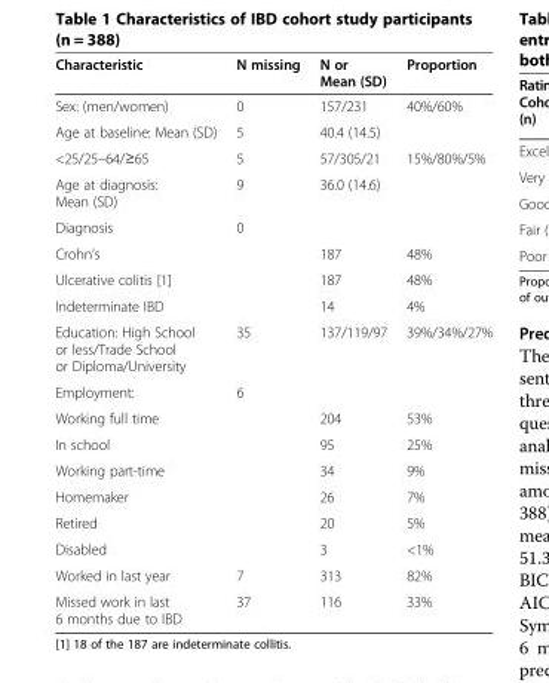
<table><thead><tr><td>Characteristic</td><td>N missing</td><td>N or Mean (SD)</td><td>Proportion</td></tr></thead><tbody><tr><td>Sex: (men/women)</td><td>0</td><td>157/231</td><td>40%/60%</td></tr><tr><td>Age at baseline: Mean (SD)</td><td>5</td><td>40.4 (14.5)</td><td></td></tr><tr><td>&lt;25/25–64/≥65</td><td>5</td><td>57/305/21</td><td>15%/80%/5%</td></tr><tr><td>Age at diagnosis: Mean (SD)</td><td>9</td><td>36.0 (14.6)</td><td></td></tr><tr><td>Diagnosis</td><td>0</td><td></td><td></td></tr><tr><td>Crohn’s</td><td></td><td>187</td><td>48%</td></tr><tr><td>Ulcerative colitis [1]</td><td></td><td>187</td><td>48%</td></tr><tr><td>Indeterminate IBD</td><td></td><td>14</td><td>4%</td></tr><tr><td>Education: High School or less/Trade School or Diploma/University</td><td>35</td><td>137/119/97</td><td>39%/34%/27%</td></tr><tr><td>Employment:</td><td>6</td><td></td><td></td></tr><tr><td>Working full time</td><td></td><td>204</td><td>53%</td></tr><tr><td>In school</td><td></td><td>95</td><td>25%</td></tr><tr><td>Working part-time</td><td></td><td>34</td><td>9%</td></tr><tr><td>Homemaker</td><td></td><td>26</td><td>7%</td></tr><tr><td>Retired</td><td></td><td>20</td><td>5%</td></tr><tr><td>Disabled</td><td></td><td>3</td><td>&lt;1%</td></tr><tr><td>Worked in last year</td><td>7</td><td>313</td><td>82%</td></tr><tr><td>Missed work in last 6 months due to IBD</td><td>37</td><td>116</td><td>33%</td></tr></tbody></table>